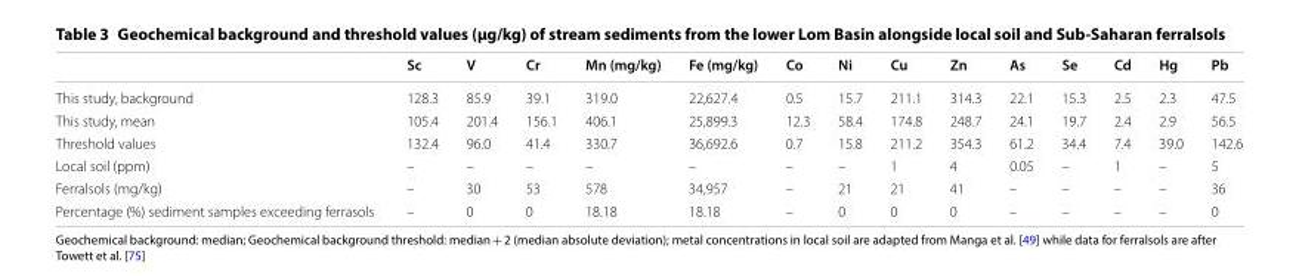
<table><thead><tr><td></td><td>Sc</td><td>V</td><td>Cr</td><td>Mn (mg/kg)</td><td>Fe (mg/kg)</td><td>Co</td><td>Ni</td><td>Cu</td><td>Zn</td><td>As</td><td>Se</td><td>Cd</td><td>Hg</td><td>Pb</td></tr></thead><tbody><tr><td>This study, background</td><td>128.3</td><td>85.9</td><td>39.1</td><td>319.0</td><td>22,627.4</td><td>0.5</td><td>15.7</td><td>211.1</td><td>314.3</td><td>22.1</td><td>15.3</td><td>2.5</td><td>2.3</td><td>47.5</td></tr><tr><td>This study, mean</td><td>105.4</td><td>201.4</td><td>156.1</td><td>406.1</td><td>25,899.3</td><td>12.3</td><td>58.4</td><td>174.8</td><td>248.7</td><td>24.1</td><td>19.7</td><td>2.4</td><td>2.9</td><td>56.5</td></tr><tr><td>Threshold values</td><td>132.4</td><td>96.0</td><td>41.4</td><td>330.7</td><td>36,692.6</td><td>0.7</td><td>15.8</td><td>211.2</td><td>354.3</td><td>61.2</td><td>34.4</td><td>7.4</td><td>39.0</td><td>142.6</td></tr><tr><td>Local soil (ppm)</td><td>–</td><td>–</td><td>–</td><td>–</td><td>–</td><td>–</td><td>–</td><td>1</td><td>4</td><td>0.05</td><td>–</td><td>1</td><td>–</td><td>5</td></tr><tr><td>Ferralsols (mg/kg)</td><td>–</td><td>30</td><td>53</td><td>578</td><td>34,957</td><td>–</td><td>21</td><td>21</td><td>41</td><td>–</td><td>–</td><td>–</td><td>–</td><td>36</td></tr><tr><td>Percentage (%) sediment samples exceeding ferrasols</td><td>–</td><td>0</td><td>0</td><td>18.18</td><td>18.18</td><td>–</td><td>0</td><td>0</td><td>0</td><td>–</td><td>–</td><td>–</td><td>–</td><td>0</td></tr></tbody></table>